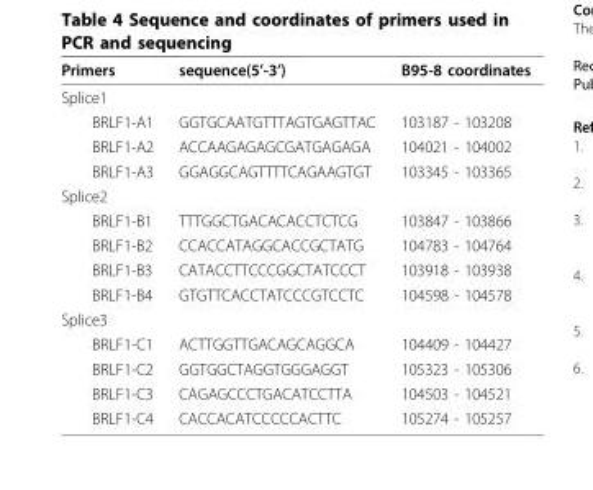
<table><thead><tr><td>Primers</td><td>sequence(5’-3’)</td><td>B95-8 coordinates</td></tr></thead><tbody><tr><td colspan="3">Splice1</td></tr><tr><td>BRLF1-A1</td><td>GGTGCAATGTTTAGTGAGTTAC</td><td>103187 - 103208</td></tr><tr><td>BRLF1-A2</td><td>ACCAAGAGAGCGATGAGAGA</td><td>104021 - 104002</td></tr><tr><td>BRLF1-A3</td><td>GGAGGCAGTTTTCAGAAGTGT</td><td>103345 - 103365</td></tr><tr><td colspan="3">Splice2</td></tr><tr><td>BRLF1-B1</td><td>TTTGGCTGACACACCTCTCG</td><td>103847 - 103866</td></tr><tr><td>BRLF1-B2</td><td>CCACCATAGGCACCGCTATG</td><td>104783 - 104764</td></tr><tr><td>BRLF1-B3</td><td>CATACCTTCCCGGCTATCCCT</td><td>103918 - 103938</td></tr><tr><td>BRLF1-B4</td><td>GTGTTCACCTATCCCGTCCTC</td><td>104598 - 104578</td></tr><tr><td colspan="3">Splice3</td></tr><tr><td>BRLF1-C1</td><td>ACTTGGTTGACAGCAGGCA</td><td>104409 - 104427</td></tr><tr><td>BRLF1-C2</td><td>GGTGGCTAGGTGGGAGGT</td><td>105323 - 105306</td></tr><tr><td>BRLF1-C3</td><td>CAGAGCCCTGACATCCTTA</td><td>104503 - 104521</td></tr><tr><td>BRLF1-C4</td><td>CACCACATCCCCCACTTC</td><td>105274 - 105257</td></tr></tbody></table>